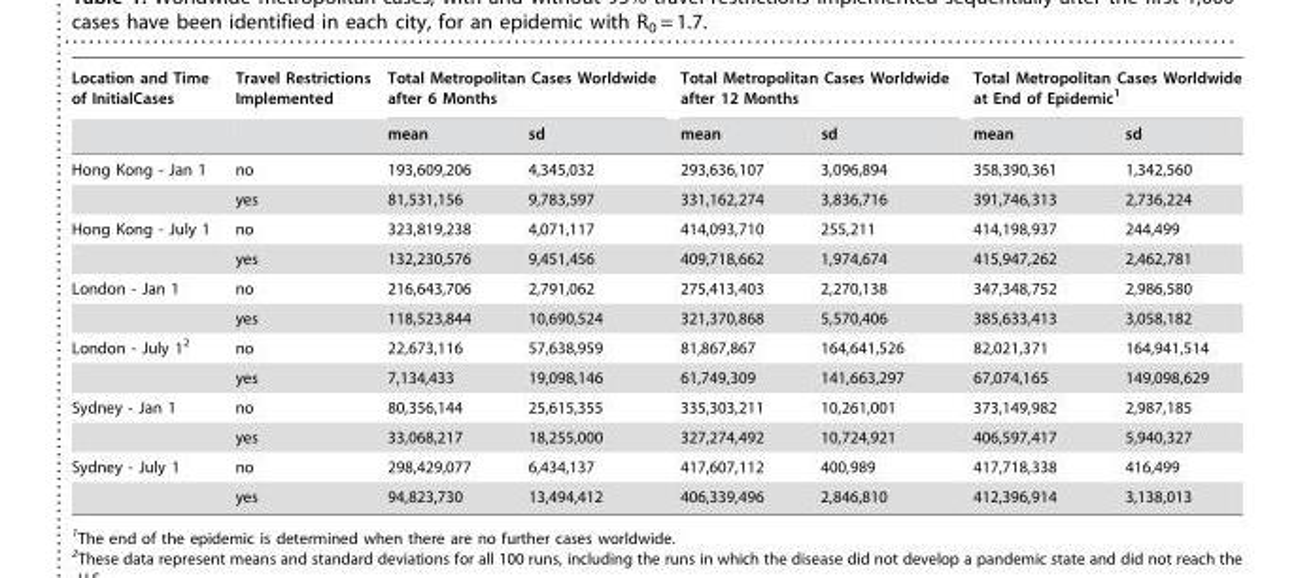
<table><thead><tr><td rowspan="2">Location and Time of InitialCases</td><td rowspan="2">Travel Restrictions Implemented</td><td colspan="2">Total Metropolitan Cases Worldwide after 6 Months</td><td colspan="2">Total Metropolitan Cases Worldwide after 12 Months</td><td colspan="2">Total Metropolitan Cases Worldwide at End of Epidemic<sup>1</sup></td></tr><tr><td>mean</td><td>sd</td><td>mean</td><td>sd</td><td>mean</td><td>sd</td></tr></thead><tbody><tr><td rowspan="2">Hong Kong - Jan 1</td><td>no</td><td>193,609,206</td><td>4,345,032</td><td>293,636,107</td><td>3,096,894</td><td>358,390,361</td><td>1,342,560</td></tr><tr><td>yes</td><td>81,531,156</td><td>9,783,597</td><td>331,162,274</td><td>3,836,716</td><td>391,746,313</td><td>2,736,224</td></tr><tr><td rowspan="2">Hong Kong - July 1</td><td>no</td><td>323,819,238</td><td>4,071,117</td><td>414,093,710</td><td>255,211</td><td>414,198,937</td><td>244,499</td></tr><tr><td>yes</td><td>132,230,576</td><td>9,451,456</td><td>409,718,662</td><td>1,974,674</td><td>415,947,262</td><td>2,462,781</td></tr><tr><td rowspan="2">London - Jan 1</td><td>no</td><td>216,643,706</td><td>2,791,062</td><td>275,413,403</td><td>2,270,138</td><td>347,348,752</td><td>2,986,580</td></tr><tr><td>yes</td><td>118,523,844</td><td>10,690,524</td><td>321,370,868</td><td>5,570,406</td><td>385,633,413</td><td>3,058,182</td></tr><tr><td rowspan="2">London - July 1<sup>2</sup></td><td>no</td><td>22,673,116</td><td>57,638,959</td><td>81,867,867</td><td>164,641,526</td><td>82,021,371</td><td>164,941,514</td></tr><tr><td>yes</td><td>7,134,433</td><td>19,098,146</td><td>61,749,309</td><td>141,663,297</td><td>67,074,165</td><td>149,098,629</td></tr><tr><td rowspan="2">Sydney - Jan 1</td><td>no</td><td>80,356,144</td><td>25,615,355</td><td>335,303,211</td><td>10,261,001</td><td>373,149,982</td><td>2,987,185</td></tr><tr><td>yes</td><td>33,068,217</td><td>18,255,000</td><td>327,274,492</td><td>10,724,921</td><td>406,597,417</td><td>5,940,327</td></tr><tr><td rowspan="2">Sydney - July 1</td><td>no</td><td>298,429,077</td><td>6,434,137</td><td>417,607,112</td><td>400,989</td><td>417,718,338</td><td>416,499</td></tr><tr><td>yes</td><td>94,823,730</td><td>13,494,412</td><td>406,339,496</td><td>2,846,810</td><td>412,396,914</td><td>3,138,013</td></tr></tbody></table>